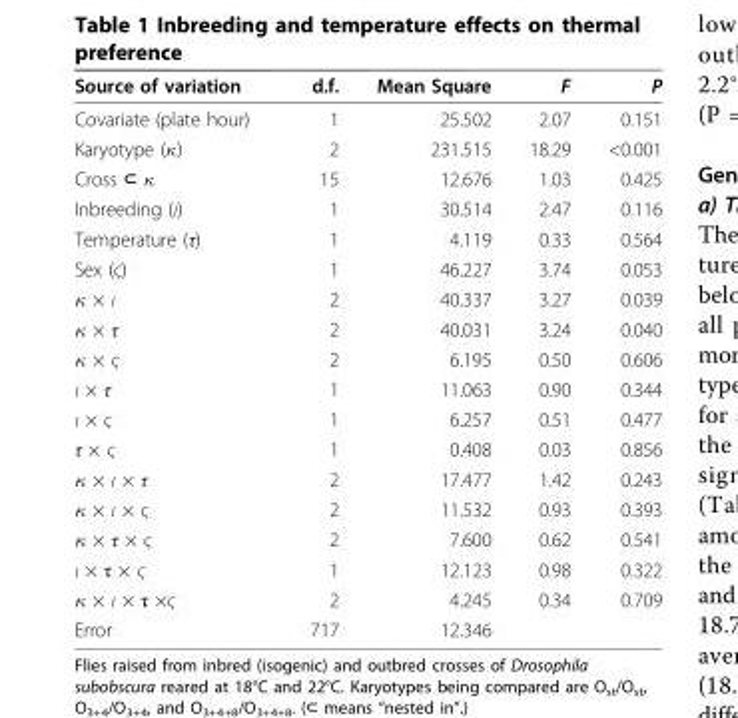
<table><thead><tr><td>Source of variation</td><td>d.f.</td><td>Mean Square</td><td>F</td><td>P</td></tr></thead><tbody><tr><td>Covariate (plate hour)</td><td>1</td><td>25.502</td><td>2.07</td><td>0.151</td></tr><tr><td>Karyotype (κ)</td><td>2</td><td>231.515</td><td>18.29</td><td>&lt;0.001</td></tr><tr><td>Cross ⊂ κ</td><td>15</td><td>12.676</td><td>1.03</td><td>0.425</td></tr><tr><td>Inbreeding (ι)</td><td>1</td><td>30.514</td><td>2.47</td><td>0.116</td></tr><tr><td>Temperature (τ)</td><td>1</td><td>4.119</td><td>0.33</td><td>0.564</td></tr><tr><td>Sex (ς)</td><td>1</td><td>46.227</td><td>3.74</td><td>0.053</td></tr><tr><td>κ × ι</td><td>2</td><td>40.337</td><td>3.27</td><td>0.039</td></tr><tr><td>κ × τ</td><td>2</td><td>40.031</td><td>3.24</td><td>0.040</td></tr><tr><td>κ × ς</td><td>2</td><td>6.195</td><td>0.50</td><td>0.606</td></tr><tr><td>ι × τ</td><td>1</td><td>11.063</td><td>0.90</td><td>0.344</td></tr><tr><td>ι × ς</td><td>1</td><td>6.257</td><td>0.51</td><td>0.477</td></tr><tr><td>τ × ς</td><td>1</td><td>0.408</td><td>0.03</td><td>0.856</td></tr><tr><td>κ × ι × τ</td><td>2</td><td>17.477</td><td>1.42</td><td>0.243</td></tr><tr><td>κ × ι × ς</td><td>2</td><td>11.532</td><td>0.93</td><td>0.393</td></tr><tr><td>κ × τ × ς</td><td>2</td><td>7.600</td><td>0.62</td><td>0.541</td></tr><tr><td>ι × τ × ς</td><td>1</td><td>12.123</td><td>0.98</td><td>0.322</td></tr><tr><td>κ × ι × τ ×ς</td><td>2</td><td>4.245</td><td>0.34</td><td>0.709</td></tr><tr><td>Error</td><td>717</td><td>12.346</td><td></td><td></td></tr></tbody></table>